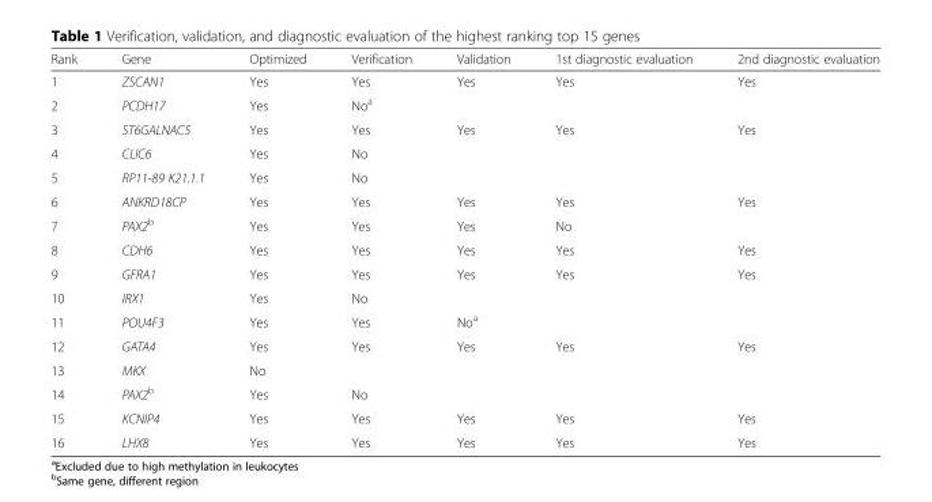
<table><thead><tr><td>Rank</td><td>Gene</td><td>Optimized</td><td>Verification</td><td>Validation</td><td>1st diagnostic evaluation</td><td>2nd diagnostic evaluation</td></tr></thead><tbody><tr><td>1</td><td>ZSCAN1</td><td>Yes</td><td>Yes</td><td>Yes</td><td>Yes</td><td>Yes</td></tr><tr><td>2</td><td>PCDH17</td><td>Yes</td><td>No<sup>a</sup></td><td></td><td></td><td></td></tr><tr><td>3</td><td>ST6GALNAC5</td><td>Yes</td><td>Yes</td><td>Yes</td><td>Yes</td><td>Yes</td></tr><tr><td>4</td><td>CLIC6</td><td>Yes</td><td>No</td><td></td><td></td><td></td></tr><tr><td>5</td><td>RP11-89 K21.1.1</td><td>Yes</td><td>No</td><td></td><td></td><td></td></tr><tr><td>6</td><td>ANKRD18CP</td><td>Yes</td><td>Yes</td><td>Yes</td><td>Yes</td><td>Yes</td></tr><tr><td>7</td><td>PAX2<sup>b</sup></td><td>Yes</td><td>Yes</td><td>Yes</td><td>No</td><td></td></tr><tr><td>8</td><td>CDH6</td><td>Yes</td><td>Yes</td><td>Yes</td><td>Yes</td><td>Yes</td></tr><tr><td>9</td><td>GFRA1</td><td>Yes</td><td>Yes</td><td>Yes</td><td>Yes</td><td>Yes</td></tr><tr><td>10</td><td>IRX1</td><td>Yes</td><td>No</td><td></td><td></td><td></td></tr><tr><td>11</td><td>POU4F3</td><td>Yes</td><td>Yes</td><td>No<sup>a</sup></td><td></td><td></td></tr><tr><td>12</td><td>GATA4</td><td>Yes</td><td>Yes</td><td>Yes</td><td>Yes</td><td>Yes</td></tr><tr><td>13</td><td>MKX</td><td>No</td><td></td><td></td><td></td><td></td></tr><tr><td>14</td><td>PAX2<sup>b</sup></td><td>Yes</td><td>No</td><td></td><td></td><td></td></tr><tr><td>15</td><td>KCNIP4</td><td>Yes</td><td>Yes</td><td>Yes</td><td>Yes</td><td>Yes</td></tr><tr><td>16</td><td>LHX8</td><td>Yes</td><td>Yes</td><td>Yes</td><td>Yes</td><td>Yes</td></tr></tbody></table>